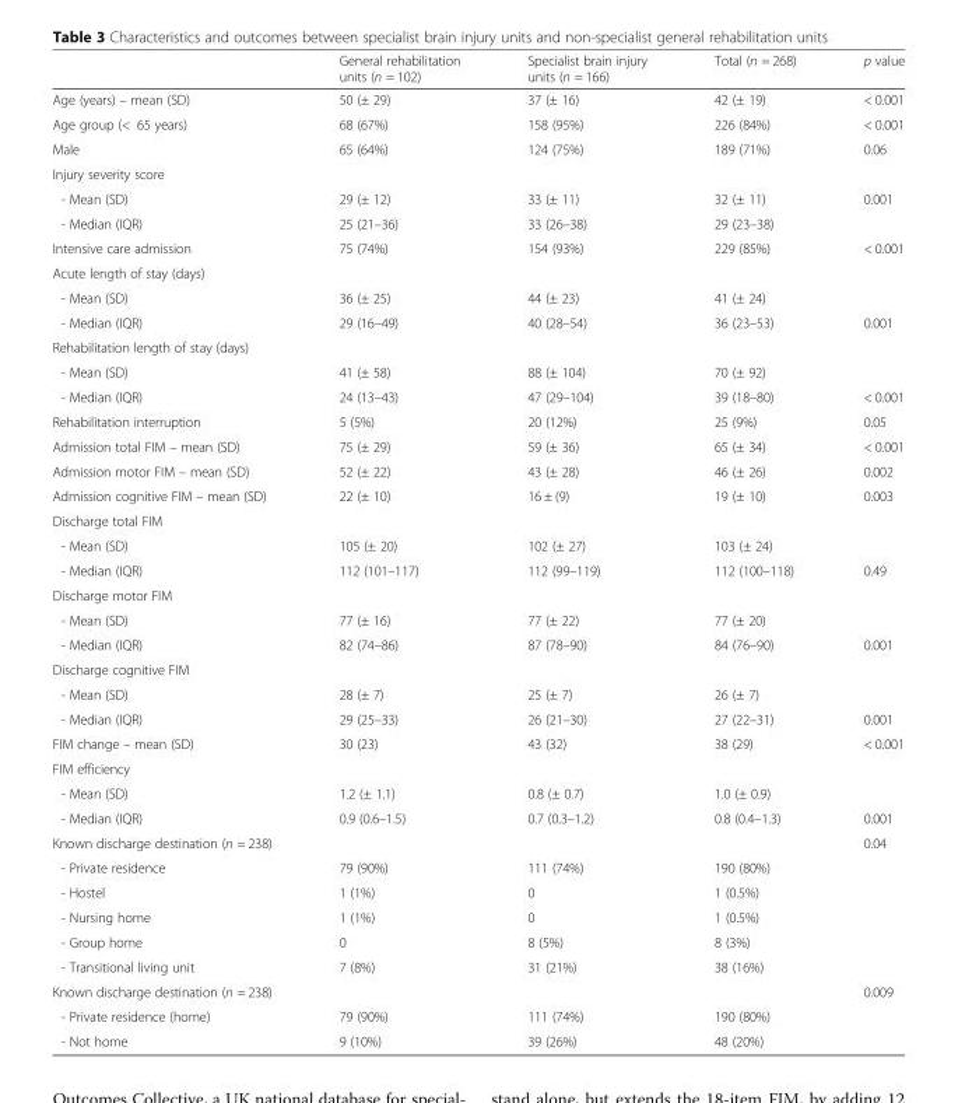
<table><thead><tr><td></td><td>General rehabilitation units (n = 102)</td><td>Specialist brain injury units (n = 166)</td><td>Total (n = 268)</td><td>p value</td></tr></thead><tbody><tr><td>Age (years) – mean (SD)</td><td>50 (± 29)</td><td>37 (± 16)</td><td>42 (± 19)</td><td>&lt; 0.001</td></tr><tr><td>Age group (&lt; 65 years)</td><td>68 (67%)</td><td>158 (95%)</td><td>226 (84%)</td><td>&lt; 0.001</td></tr><tr><td>Male</td><td>65 (64%)</td><td>124 (75%)</td><td>189 (71%)</td><td>0.06</td></tr><tr><td colspan="5">Injury severity score</td></tr><tr><td>- Mean (SD)</td><td>29 (± 12)</td><td>33 (± 11)</td><td>32 (± 11)</td><td rowspan="2">0.001</td></tr><tr><td>- Median (IQR)</td><td>25 (21–36)</td><td>33 (26–38)</td><td>29 (23–38)</td></tr><tr><td>Intensive care admission</td><td>75 (74%)</td><td>154 (93%)</td><td>229 (85%)</td><td>&lt; 0.001</td></tr><tr><td colspan="5">Acute length of stay (days)</td></tr><tr><td>- Mean (SD)</td><td>36 (± 25)</td><td>44 (± 23)</td><td>41 (± 24)</td><td></td></tr><tr><td>- Median (IQR)</td><td>29 (16–49)</td><td>40 (28–54)</td><td>36 (23–53)</td><td>0.001</td></tr><tr><td colspan="5">Rehabilitation length of stay (days)</td></tr><tr><td>- Mean (SD)</td><td>41 (± 58)</td><td>88 (± 104)</td><td>70 (± 92)</td><td></td></tr><tr><td>- Median (IQR)</td><td>24 (13–43)</td><td>47 (29–104)</td><td>39 (18–80)</td><td>&lt; 0.001</td></tr><tr><td>Rehabilitation interruption</td><td>5 (5%)</td><td>20 (12%)</td><td>25 (9%)</td><td>0.05</td></tr><tr><td>Admission total FIM – mean (SD)</td><td>75 (± 29)</td><td>59 (± 36)</td><td>65 (± 34)</td><td>&lt; 0.001</td></tr><tr><td>Admission motor FIM – mean (SD)</td><td>52 (± 22)</td><td>43 (± 28)</td><td>46 (± 26)</td><td>0.002</td></tr><tr><td>Admission cognitive FIM – mean (SD)</td><td>22 (± 10)</td><td>16 ± (9)</td><td>19 (± 10)</td><td>0.003</td></tr><tr><td colspan="5">Discharge total FIM</td></tr><tr><td>- Mean (SD)</td><td>105 (± 20)</td><td>102 (± 27)</td><td>103 (± 24)</td><td></td></tr><tr><td>- Median (IQR)</td><td>112 (101–117)</td><td>112 (99–119)</td><td>112 (100–118)</td><td>0.49</td></tr><tr><td colspan="5">Discharge motor FIM</td></tr><tr><td>- Mean (SD)</td><td>77 (± 16)</td><td>77 (± 22)</td><td>77 (± 20)</td><td></td></tr><tr><td>- Median (IQR)</td><td>82 (74–86)</td><td>87 (78–90)</td><td>84 (76–90)</td><td>0.001</td></tr><tr><td colspan="5">Discharge cognitive FIM</td></tr><tr><td>- Mean (SD)</td><td>28 (± 7)</td><td>25 (± 7)</td><td>26 (± 7)</td><td></td></tr><tr><td>- Median (IQR)</td><td>29 (25–33)</td><td>26 (21–30)</td><td>27 (22–31)</td><td>0.001</td></tr><tr><td>FIM change – mean (SD)</td><td>30 (23)</td><td>43 (32)</td><td>38 (29)</td><td>&lt; 0.001</td></tr><tr><td colspan="5">FIM efficiency</td></tr><tr><td>- Mean (SD)</td><td>1.2 (± 1.1)</td><td>0.8 (± 0.7)</td><td>1.0 (± 0.9)</td><td></td></tr><tr><td>- Median (IQR)</td><td>0.9 (0.6–1.5)</td><td>0.7 (0.3–1.2)</td><td>0.8 (0.4–1.3)</td><td>0.001</td></tr><tr><td>Known discharge destination (n = 238)</td><td></td><td></td><td></td><td>0.04</td></tr><tr><td>- Private residence</td><td>79 (90%)</td><td>111 (74%)</td><td>190 (80%)</td><td></td></tr><tr><td>- Hostel</td><td>1 (1%)</td><td>0</td><td>1 (0.5%)</td><td></td></tr><tr><td>- Nursing home</td><td>1 (1%)</td><td>0</td><td>1 (0.5%)</td><td></td></tr><tr><td>- Group home</td><td>0</td><td>8 (5%)</td><td>8 (3%)</td><td></td></tr><tr><td>- Transitional living unit</td><td>7 (8%)</td><td>31 (21%)</td><td>38 (16%)</td><td></td></tr><tr><td>Known discharge destination (n = 238)</td><td></td><td></td><td></td><td>0.009</td></tr><tr><td>- Private residence (home)</td><td>79 (90%)</td><td>111 (74%)</td><td>190 (80%)</td><td></td></tr><tr><td>- Not home</td><td>9 (10%)</td><td>39 (26%)</td><td>48 (20%)</td><td></td></tr></tbody></table>